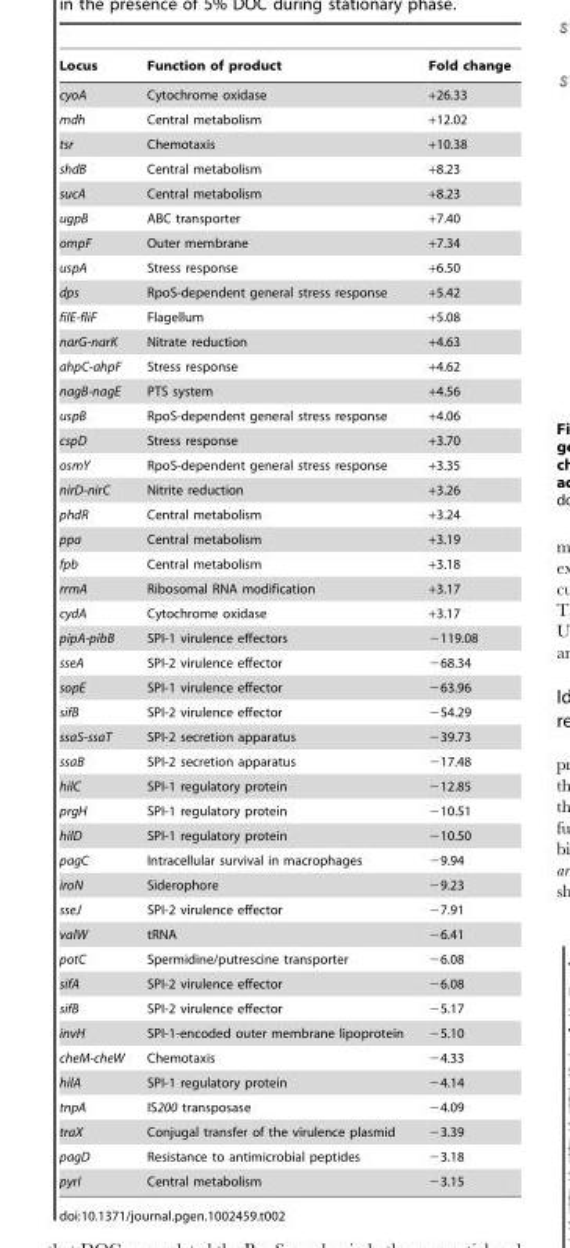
<table><thead><tr><td>Locus</td><td>Function of product</td><td>Fold change</td></tr></thead><tbody><tr><td>cyoA</td><td>Cytochrome oxidase</td><td>+26.33</td></tr><tr><td>mdh</td><td>Central metabolism</td><td>+12.02</td></tr><tr><td>tsr</td><td>Chemotaxis</td><td>+10.38</td></tr><tr><td>shdB</td><td>Central metabolism</td><td>+8.23</td></tr><tr><td>sucA</td><td>Central metabolism</td><td>+8.23</td></tr><tr><td>ugpB</td><td>ABC transporter</td><td>+7.40</td></tr><tr><td>ompF</td><td>Outer membrane</td><td>+7.34</td></tr><tr><td>uspA</td><td>Stress response</td><td>+6.50</td></tr><tr><td>dps</td><td>RpoS-dependent general stress response</td><td>+5.42</td></tr><tr><td>filE-fliF</td><td>Flagellum</td><td>+5.08</td></tr><tr><td>narG-narK</td><td>Nitrate reduction</td><td>+4.63</td></tr><tr><td>ahpC-ahpF</td><td>Stress response</td><td>+4.62</td></tr><tr><td>nagB-nagE</td><td>PTS system</td><td>+4.56</td></tr><tr><td>uspB</td><td>RpoS-dependent general stress response</td><td>+4.06</td></tr><tr><td>cspD</td><td>Stress response</td><td>+3.70</td></tr><tr><td>osmY</td><td>RpoS-dependent general stress response</td><td>+3.35</td></tr><tr><td>nirD-nirC</td><td>Nitrite reduction</td><td>+3.26</td></tr><tr><td>phdR</td><td>Central metabolism</td><td>+3.24</td></tr><tr><td>ppa</td><td>Central metabolism</td><td>+3.19</td></tr><tr><td>fpb</td><td>Central metabolism</td><td>+3.18</td></tr><tr><td>rrmA</td><td>Ribosomal RNA modification</td><td>+3.17</td></tr><tr><td>cydA</td><td>Cytochrome oxidase</td><td>+3.17</td></tr><tr><td>pipA-pibB</td><td>SPI-1 virulence effectors</td><td>−119.08</td></tr><tr><td>sseA</td><td>SPI-2 virulence effector</td><td>−68.34</td></tr><tr><td>sopE</td><td>SPI-1 virulence effector</td><td>−63.96</td></tr><tr><td>sifB</td><td>SPI-2 virulence effector</td><td>−54.29</td></tr><tr><td>ssaS-ssaT</td><td>SPI-2 secretion apparatus</td><td>−39.73</td></tr><tr><td>ssaB</td><td>SPI-2 secretion apparatus</td><td>−17.48</td></tr><tr><td>hilC</td><td>SPI-1 regulatory protein</td><td>−12.85</td></tr><tr><td>prgH</td><td>SPI-1 regulatory protein</td><td>−10.51</td></tr><tr><td>hilD</td><td>SPI-1 regulatory protein</td><td>−10.50</td></tr><tr><td>pagC</td><td>Intracellular survival in macrophages</td><td>−9.94</td></tr><tr><td>iroN</td><td>Siderophore</td><td>−9.23</td></tr><tr><td>sseJ</td><td>SPI-2 virulence effector</td><td>−7.91</td></tr><tr><td>valW</td><td>tRNA</td><td>−6.41</td></tr><tr><td>potC</td><td>Spermidine/putrescine transporter</td><td>−6.08</td></tr><tr><td>sifA</td><td>SPI-2 virulence effector</td><td>−6.08</td></tr><tr><td>sifB</td><td>SPI-2 virulence effector</td><td>−5.17</td></tr><tr><td>invH</td><td>SPI-1-encoded outer membrane lipoprotein</td><td>−5.10</td></tr><tr><td>cheM-cheW</td><td>Chemotaxis</td><td>−4.33</td></tr><tr><td>hilA</td><td>SPI-1 regulatory protein</td><td>−4.14</td></tr><tr><td>tnpA</td><td>IS200 transposase</td><td>−4.09</td></tr><tr><td>traX</td><td>Conjugal transfer of the virulence plasmid</td><td>−3.39</td></tr><tr><td>pagD</td><td>Resistance to antimicrobial peptides</td><td>−3.18</td></tr><tr><td>pyrI</td><td>Central metabolism</td><td>−3.15</td></tr></tbody></table>